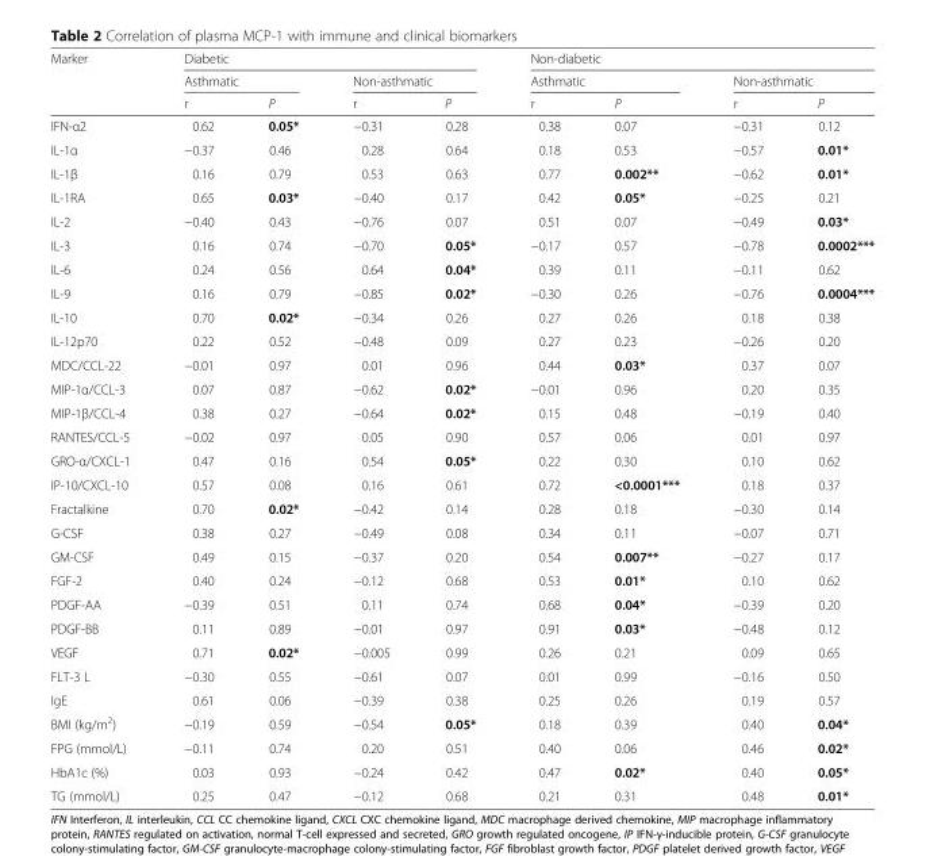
<table><thead><tr><td rowspan="3">Marker</td><td colspan="4">Diabetic</td><td colspan="4">Non-diabetic</td></tr><tr><td colspan="2">Asthmatic</td><td colspan="2">Non-asthmatic</td><td colspan="2">Asthmatic</td><td colspan="2">Non-asthmatic</td></tr><tr><td>r</td><td>P</td><td>r</td><td>P</td><td>r</td><td>P</td><td>r</td><td>P</td></tr></thead><tbody><tr><td>IFN-α2</td><td>0.62</td><td>0.05*</td><td>−0.31</td><td>0.28</td><td>0.38</td><td>0.07</td><td>−0.31</td><td>0.12</td></tr><tr><td>IL-1α</td><td>−0.37</td><td>0.46</td><td>0.28</td><td>0.64</td><td>0.18</td><td>0.53</td><td>−0.57</td><td>0.01*</td></tr><tr><td>IL-1β</td><td>0.16</td><td>0.79</td><td>0.53</td><td>0.63</td><td>0.77</td><td>0.002**</td><td>−0.62</td><td>0.01*</td></tr><tr><td>IL-1RA</td><td>0.65</td><td>0.03*</td><td>−0.40</td><td>0.17</td><td>0.42</td><td>0.05*</td><td>−0.25</td><td>0.21</td></tr><tr><td>IL-2</td><td>−0.40</td><td>0.43</td><td>−0.76</td><td>0.07</td><td>0.51</td><td>0.07</td><td>−0.49</td><td>0.03*</td></tr><tr><td>IL-3</td><td>0.16</td><td>0.74</td><td>−0.70</td><td>0.05*</td><td>−0.17</td><td>0.57</td><td>−0.78</td><td>0.0002***</td></tr><tr><td>IL-6</td><td>0.24</td><td>0.56</td><td>0.64</td><td>0.04*</td><td>0.39</td><td>0.11</td><td>−0.11</td><td>0.62</td></tr><tr><td>IL-9</td><td>0.16</td><td>0.79</td><td>−0.85</td><td>0.02*</td><td>−0.30</td><td>0.26</td><td>−0.76</td><td>0.0004***</td></tr><tr><td>IL-10</td><td>0.70</td><td>0.02*</td><td>−0.34</td><td>0.26</td><td>0.27</td><td>0.26</td><td>0.18</td><td>0.38</td></tr><tr><td>IL-12p70</td><td>0.22</td><td>0.52</td><td>−0.48</td><td>0.09</td><td>0.27</td><td>0.23</td><td>−0.26</td><td>0.20</td></tr><tr><td>MDC/CCL-22</td><td>−0.01</td><td>0.97</td><td>0.01</td><td>0.96</td><td>0.44</td><td>0.03*</td><td>0.37</td><td>0.07</td></tr><tr><td>MIP-1α/CCL-3</td><td>0.07</td><td>0.87</td><td>−0.62</td><td>0.02*</td><td>−0.01</td><td>0.96</td><td>0.20</td><td>0.35</td></tr><tr><td>MIP-1β/CCL-4</td><td>0.38</td><td>0.27</td><td>−0.64</td><td>0.02*</td><td>0.15</td><td>0.48</td><td>−0.19</td><td>0.40</td></tr><tr><td>RANTES/CCL-5</td><td>−0.02</td><td>0.97</td><td>0.05</td><td>0.90</td><td>0.57</td><td>0.06</td><td>0.01</td><td>0.97</td></tr><tr><td>GRO-α/CXCL-1</td><td>0.47</td><td>0.16</td><td>0.54</td><td>0.05*</td><td>0.22</td><td>0.30</td><td>0.10</td><td>0.62</td></tr><tr><td>IP-10/CXCL-10</td><td>0.57</td><td>0.08</td><td>0.16</td><td>0.61</td><td>0.72</td><td>&lt;0.0001***</td><td>0.18</td><td>0.37</td></tr><tr><td>Fractalkine</td><td>0.70</td><td>0.02*</td><td>−0.42</td><td>0.14</td><td>0.28</td><td>0.18</td><td>−0.30</td><td>0.14</td></tr><tr><td>G-CSF</td><td>0.38</td><td>0.27</td><td>−0.49</td><td>0.08</td><td>0.34</td><td>0.11</td><td>−0.07</td><td>0.71</td></tr><tr><td>GM-CSF</td><td>0.49</td><td>0.15</td><td>−0.37</td><td>0.20</td><td>0.54</td><td>0.007**</td><td>−0.27</td><td>0.17</td></tr><tr><td>FGF-2</td><td>0.40</td><td>0.24</td><td>−0.12</td><td>0.68</td><td>0.53</td><td>0.01*</td><td>0.10</td><td>0.62</td></tr><tr><td>PDGF-AA</td><td>−0.39</td><td>0.51</td><td>0.11</td><td>0.74</td><td>0.68</td><td>0.04*</td><td>−0.39</td><td>0.20</td></tr><tr><td>PDGF-BB</td><td>0.11</td><td>0.89</td><td>−0.01</td><td>0.97</td><td>0.91</td><td>0.03*</td><td>−0.48</td><td>0.12</td></tr><tr><td>VEGF</td><td>0.71</td><td>0.02*</td><td>−0.005</td><td>0.99</td><td>0.26</td><td>0.21</td><td>0.09</td><td>0.65</td></tr><tr><td>FLT-3 L</td><td>−0.30</td><td>0.55</td><td>−0.61</td><td>0.07</td><td>0.01</td><td>0.99</td><td>−0.16</td><td>0.50</td></tr><tr><td>IgE</td><td>0.61</td><td>0.06</td><td>−0.39</td><td>0.38</td><td>0.25</td><td>0.26</td><td>0.19</td><td>0.57</td></tr><tr><td>BMI (kg/m<sup>2</sup>)</td><td>−0.19</td><td>0.59</td><td>−0.54</td><td>0.05*</td><td>0.18</td><td>0.39</td><td>0.40</td><td>0.04*</td></tr><tr><td>FPG (mmol/L)</td><td>−0.11</td><td>0.74</td><td>0.20</td><td>0.51</td><td>0.40</td><td>0.06</td><td>0.46</td><td>0.02*</td></tr><tr><td>HbA1c (%)</td><td>0.03</td><td>0.93</td><td>−0.24</td><td>0.42</td><td>0.47</td><td>0.02*</td><td>0.40</td><td>0.05*</td></tr><tr><td>TG (mmol/L)</td><td>0.25</td><td>0.47</td><td>−0.12</td><td>0.68</td><td>0.21</td><td>0.31</td><td>0.48</td><td>0.01*</td></tr></tbody></table>